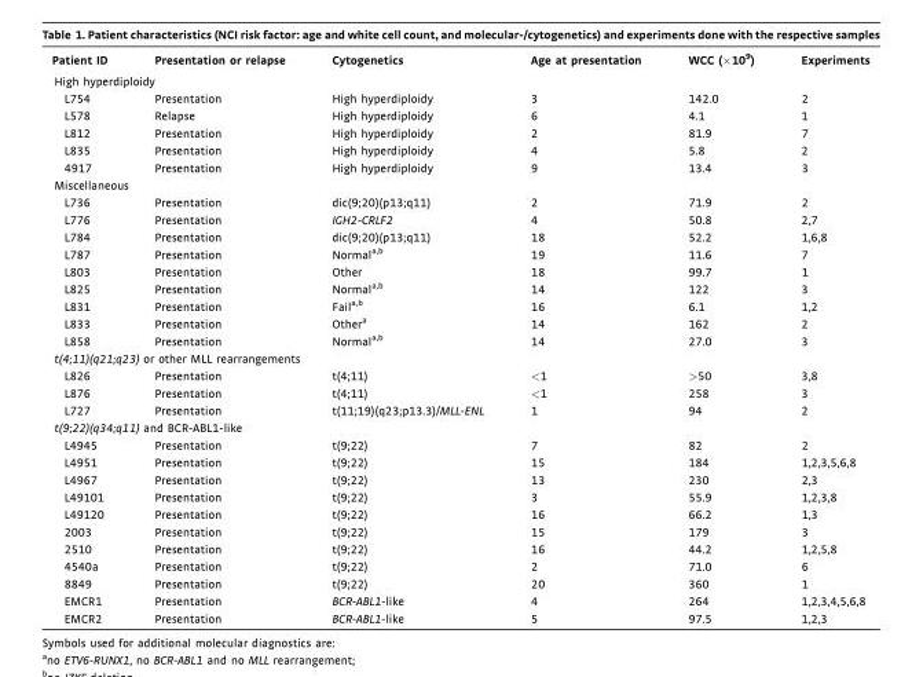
<table><thead><tr><td>Patient ID</td><td>Presentation or relapse</td><td>Cytogenetics</td><td>Age at presentation</td><td>WCC (×10<sup>9</sup>)</td><td>Experiments</td></tr></thead><tbody><tr><td colspan="6">High hyperdiploidy</td></tr><tr><td>L754</td><td>Presentation</td><td>High hyperdiploidy</td><td>3</td><td>142.0</td><td>2</td></tr><tr><td>L578</td><td>Relapse</td><td>High hyperdiploidy</td><td>6</td><td>4.1</td><td>1</td></tr><tr><td>L812</td><td>Presentation</td><td>High hyperdiploidy</td><td>2</td><td>81.9</td><td>7</td></tr><tr><td>L835</td><td>Presentation</td><td>High hyperdiploidy</td><td>4</td><td>5.8</td><td>2</td></tr><tr><td>4917</td><td>Presentation</td><td>High hyperdiploidy</td><td>9</td><td>13.4</td><td>3</td></tr><tr><td colspan="6">Miscellaneous</td></tr><tr><td>L736</td><td>Presentation</td><td>dic(9;20)(p13;q11)</td><td>2</td><td>71.9</td><td>2</td></tr><tr><td>L776</td><td>Presentation</td><td>IGH2-CRLF2</td><td>4</td><td>50.8</td><td>2,7</td></tr><tr><td>L784</td><td>Presentation</td><td>dic(9;20)(p13;q11)</td><td>18</td><td>52.2</td><td>1,6,8</td></tr><tr><td>L787</td><td>Presentation</td><td>Normal<sup>a</sup>,<sup>b</sup></td><td>19</td><td>11.6</td><td>7</td></tr><tr><td>L803</td><td>Presentation</td><td>Other</td><td>18</td><td>99.7</td><td>1</td></tr><tr><td>L825</td><td>Presentation</td><td>Normal<sup>a</sup>,<sup>b</sup></td><td>14</td><td>122</td><td>3</td></tr><tr><td>L831</td><td>Presentation</td><td>Fail<sup>a</sup>,<sup>b</sup></td><td>16</td><td>6.1</td><td>1,2</td></tr><tr><td>L833</td><td>Presentation</td><td>Other<sup>a</sup></td><td>14</td><td>162</td><td>2</td></tr><tr><td>L858</td><td>Presentation</td><td>Normal<sup>a</sup>,<sup>b</sup></td><td>14</td><td>27.0</td><td>3</td></tr><tr><td colspan="6">t(4;11)(q21;q23) or other MLL rearrangements</td></tr><tr><td>L826</td><td>Presentation</td><td>t(4;11)</td><td>&lt;1</td><td>&gt;50</td><td>3,8</td></tr><tr><td>L876</td><td>Presentation</td><td>t(4;11)</td><td>&lt;1</td><td>258</td><td>3</td></tr><tr><td>L727</td><td>Presentation</td><td>t(11;19)(q23;p13.3)/MLL-ENL</td><td>1</td><td>94</td><td>2</td></tr><tr><td colspan="6">t(9;22)(q34;q11) and BCR-ABL1-like</td></tr><tr><td>L4945</td><td>Presentation</td><td>t(9;22)</td><td>7</td><td>82</td><td>2</td></tr><tr><td>L4951</td><td>Presentation</td><td>t(9;22)</td><td>15</td><td>184</td><td>1,2,3,5,6,8</td></tr><tr><td>L4967</td><td>Presentation</td><td>t(9;22)</td><td>13</td><td>230</td><td>2,3</td></tr><tr><td>L49101</td><td>Presentation</td><td>t(9;22)</td><td>3</td><td>55.9</td><td>1,2,3,8</td></tr><tr><td>L49120</td><td>Presentation</td><td>t(9;22)</td><td>16</td><td>66.2</td><td>1,3</td></tr><tr><td>2003</td><td>Presentation</td><td>t(9;22)</td><td>15</td><td>179</td><td>3</td></tr><tr><td>2510</td><td>Presentation</td><td>t(9;22)</td><td>16</td><td>44.2</td><td>1,2,5,8</td></tr><tr><td>4540a</td><td>Presentation</td><td>t(9;22)</td><td>2</td><td>71.0</td><td>6</td></tr><tr><td>8849</td><td>Presentation</td><td>t(9;22)</td><td>20</td><td>360</td><td>1</td></tr><tr><td>EMCR1</td><td>Presentation</td><td>BCR-ABL1-like</td><td>4</td><td>264</td><td>1,2,3,4,5,6,8</td></tr><tr><td>EMCR2</td><td>Presentation</td><td>BCR-ABL1-like</td><td>5</td><td>97.5</td><td>1,2,3</td></tr></tbody></table>